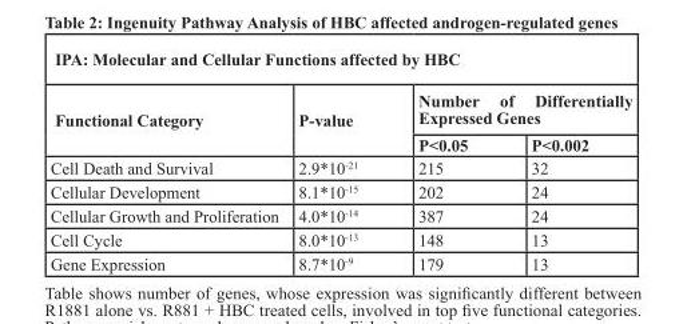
<table><thead><tr><td colspan="4">IPA: Molecular and Cellular Functions affected by HBC</td></tr><tr><td rowspan="2">Functional Category</td><td rowspan="2">P-value</td><td colspan="2">Number of Differentially Expressed Genes</td></tr><tr><td>P&lt;0.05</td><td>P&lt;0.002</td></tr></thead><tbody><tr><td>Cell Death and Survival</td><td>2.9*10<sup>-21</sup></td><td>215</td><td>32</td></tr><tr><td>Cellular Development</td><td>8.1*10<sup>-15</sup></td><td>202</td><td>24</td></tr><tr><td>Cellular Growth and Proliferation</td><td>4.0*10<sup>-14</sup></td><td>387</td><td>24</td></tr><tr><td>Cell Cycle</td><td>8.0*10<sup>-13</sup></td><td>148</td><td>13</td></tr><tr><td>Gene Expression</td><td>8.7*10<sup>-9</sup></td><td>179</td><td>13</td></tr></tbody></table>